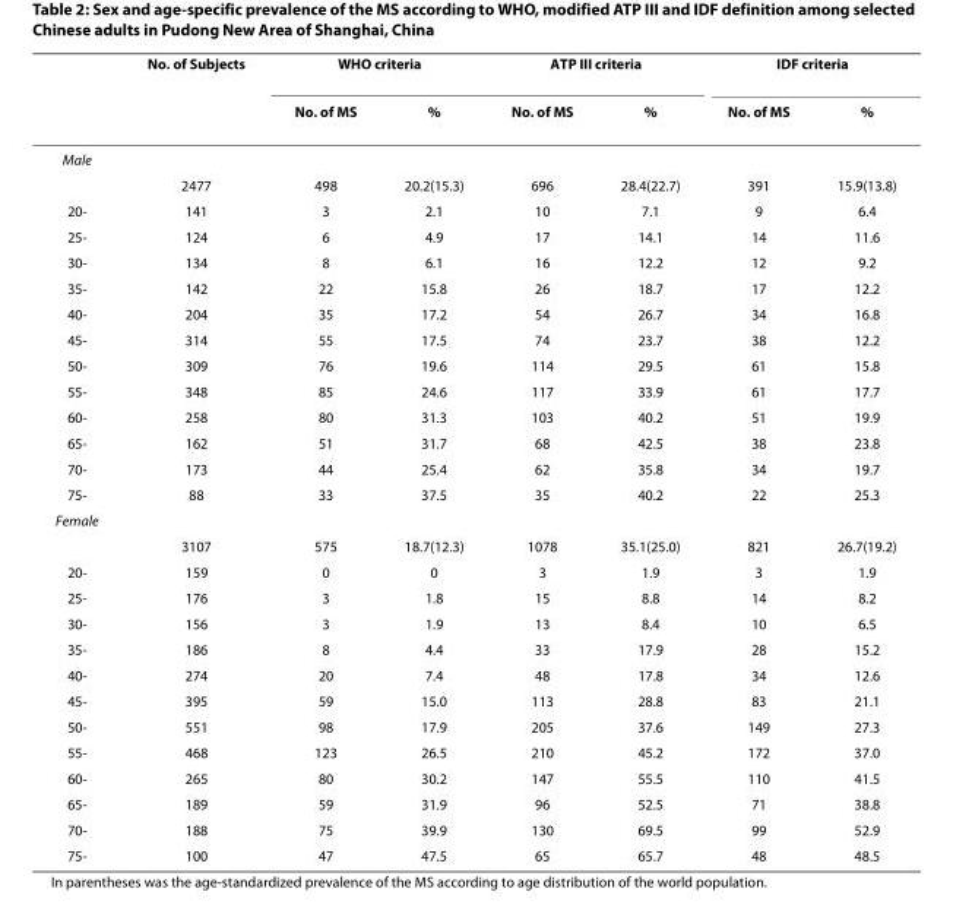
<table><thead><tr><td rowspan="2"></td><td rowspan="2">No. of Subjects</td><td colspan="2">WHO criteria</td><td colspan="2">ATP III criteria</td><td colspan="2">IDF criteria</td></tr><tr><td>No. of MS</td><td>%</td><td>No. of MS</td><td>%</td><td>No. of MS</td><td>%</td></tr></thead><tbody><tr><td colspan="8">Male</td></tr><tr><td></td><td>2477</td><td>498</td><td>20.2(15.3)</td><td>696</td><td>28.4(22.7)</td><td>391</td><td>15.9(13.8)</td></tr><tr><td>20-</td><td>141</td><td>3</td><td>2.1</td><td>10</td><td>7.1</td><td>9</td><td>6.4</td></tr><tr><td>25-</td><td>124</td><td>6</td><td>4.9</td><td>17</td><td>14.1</td><td>14</td><td>11.6</td></tr><tr><td>30-</td><td>134</td><td>8</td><td>6.1</td><td>16</td><td>12.2</td><td>12</td><td>9.2</td></tr><tr><td>35-</td><td>142</td><td>22</td><td>15.8</td><td>26</td><td>18.7</td><td>17</td><td>12.2</td></tr><tr><td>40-</td><td>204</td><td>35</td><td>17.2</td><td>54</td><td>26.7</td><td>34</td><td>16.8</td></tr><tr><td>45-</td><td>314</td><td>55</td><td>17.5</td><td>74</td><td>23.7</td><td>38</td><td>12.2</td></tr><tr><td>50-</td><td>309</td><td>76</td><td>19.6</td><td>114</td><td>29.5</td><td>61</td><td>15.8</td></tr><tr><td>55-</td><td>348</td><td>85</td><td>24.6</td><td>117</td><td>33.9</td><td>61</td><td>17.7</td></tr><tr><td>60-</td><td>258</td><td>80</td><td>31.3</td><td>103</td><td>40.2</td><td>51</td><td>19.9</td></tr><tr><td>65-</td><td>162</td><td>51</td><td>31.7</td><td>68</td><td>42.5</td><td>38</td><td>23.8</td></tr><tr><td>70-</td><td>173</td><td>44</td><td>25.4</td><td>62</td><td>35.8</td><td>34</td><td>19.7</td></tr><tr><td>75-</td><td>88</td><td>33</td><td>37.5</td><td>35</td><td>40.2</td><td>22</td><td>25.3</td></tr><tr><td colspan="8">Female</td></tr><tr><td></td><td>3107</td><td>575</td><td>18.7(12.3)</td><td>1078</td><td>35.1(25.0)</td><td>821</td><td>26.7(19.2)</td></tr><tr><td>20-</td><td>159</td><td>0</td><td>0</td><td>3</td><td>1.9</td><td>3</td><td>1.9</td></tr><tr><td>25-</td><td>176</td><td>3</td><td>1.8</td><td>15</td><td>8.8</td><td>14</td><td>8.2</td></tr><tr><td>30-</td><td>156</td><td>3</td><td>1.9</td><td>13</td><td>8.4</td><td>10</td><td>6.5</td></tr><tr><td>35-</td><td>186</td><td>8</td><td>4.4</td><td>33</td><td>17.9</td><td>28</td><td>15.2</td></tr><tr><td>40-</td><td>274</td><td>20</td><td>7.4</td><td>48</td><td>17.8</td><td>34</td><td>12.6</td></tr><tr><td>45-</td><td>395</td><td>59</td><td>15.0</td><td>113</td><td>28.8</td><td>83</td><td>21.1</td></tr><tr><td>50-</td><td>551</td><td>98</td><td>17.9</td><td>205</td><td>37.6</td><td>149</td><td>27.3</td></tr><tr><td>55-</td><td>468</td><td>123</td><td>26.5</td><td>210</td><td>45.2</td><td>172</td><td>37.0</td></tr><tr><td>60-</td><td>265</td><td>80</td><td>30.2</td><td>147</td><td>55.5</td><td>110</td><td>41.5</td></tr><tr><td>65-</td><td>189</td><td>59</td><td>31.9</td><td>96</td><td>52.5</td><td>71</td><td>38.8</td></tr><tr><td>70-</td><td>188</td><td>75</td><td>39.9</td><td>130</td><td>69.5</td><td>99</td><td>52.9</td></tr><tr><td>75-</td><td>100</td><td>47</td><td>47.5</td><td>65</td><td>65.7</td><td>48</td><td>48.5</td></tr></tbody></table>